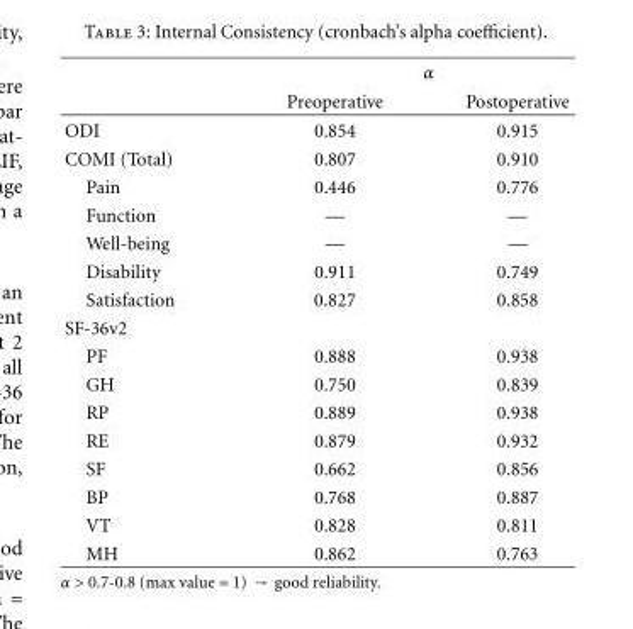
<table><thead><tr><td rowspan="2"></td><td colspan="2">α</td></tr><tr><td>Preoperative</td><td>Postoperative</td></tr></thead><tbody><tr><td>ODI</td><td>0.854</td><td>0.915</td></tr><tr><td>COMI (Total)</td><td>0.807</td><td>0.910</td></tr><tr><td>Pain</td><td>0.446</td><td>0.776</td></tr><tr><td>Function</td><td>—</td><td>—</td></tr><tr><td>Well-being</td><td>—</td><td>—</td></tr><tr><td>Disability</td><td>0.911</td><td>0.749</td></tr><tr><td>Satisfaction</td><td>0.827</td><td>0.858</td></tr><tr><td colspan="3">SF-36v2</td></tr><tr><td>PF</td><td>0.888</td><td>0.938</td></tr><tr><td>GH</td><td>0.750</td><td>0.839</td></tr><tr><td>RP</td><td>0.889</td><td>0.938</td></tr><tr><td>RE</td><td>0.879</td><td>0.932</td></tr><tr><td>SF</td><td>0.662</td><td>0.856</td></tr><tr><td>BP</td><td>0.768</td><td>0.887</td></tr><tr><td>VT</td><td>0.828</td><td>0.811</td></tr><tr><td>MH</td><td>0.862</td><td>0.763</td></tr></tbody></table>